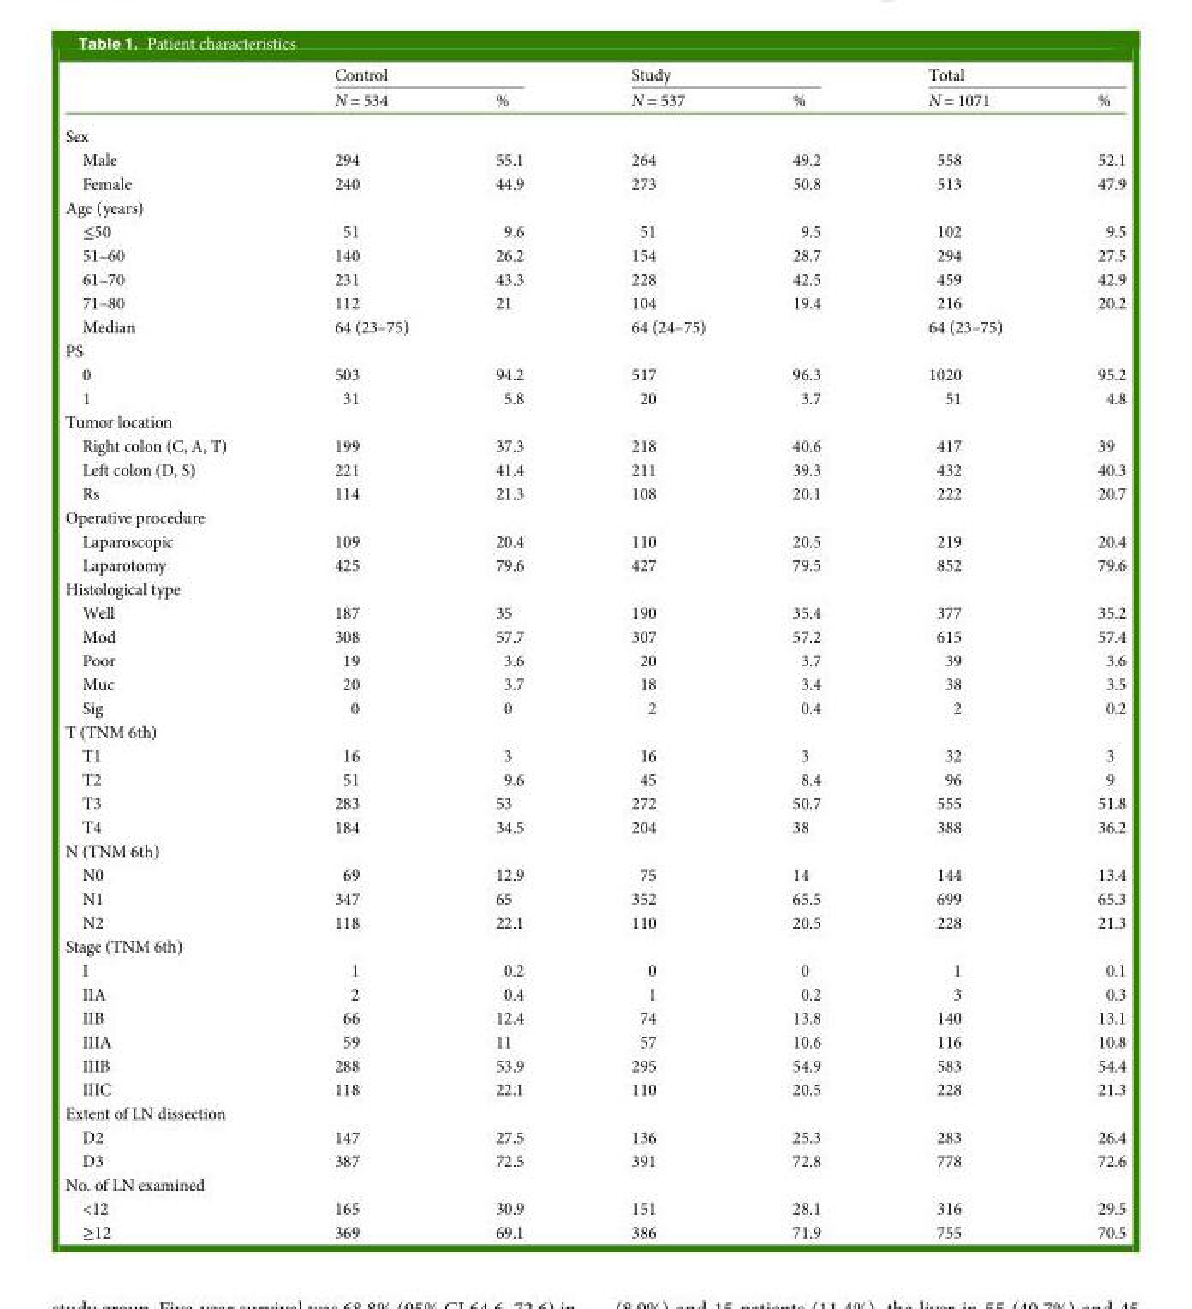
<table><thead><tr><td rowspan="2"></td><td colspan="2">Control</td><td colspan="2">Study</td><td colspan="2">Total</td></tr><tr><td>N = 534</td><td>%</td><td>N = 537</td><td>%</td><td>N = 1071</td><td>%</td></tr></thead><tbody><tr><td colspan="7">Sex</td></tr><tr><td>Male</td><td>294</td><td>55.1</td><td>264</td><td>49.2</td><td>558</td><td>52.1</td></tr><tr><td>Female</td><td>240</td><td>44.9</td><td>273</td><td>50.8</td><td>513</td><td>47.9</td></tr><tr><td colspan="7">Age (years)</td></tr><tr><td>≤50</td><td>51</td><td>9.6</td><td>51</td><td>9.5</td><td>102</td><td>9.5</td></tr><tr><td>51–60</td><td>140</td><td>26.2</td><td>154</td><td>28.7</td><td>294</td><td>27.5</td></tr><tr><td>61–70</td><td>231</td><td>43.3</td><td>228</td><td>42.5</td><td>459</td><td>42.9</td></tr><tr><td>71–80</td><td>112</td><td>21</td><td>104</td><td>19.4</td><td>216</td><td>20.2</td></tr><tr><td>Median</td><td colspan="2">64 (23–75)</td><td colspan="2">64 (24–75)</td><td colspan="2">64 (23–75)</td></tr><tr><td colspan="7">PS</td></tr><tr><td>0</td><td>503</td><td>94.2</td><td>517</td><td>96.3</td><td>1020</td><td>95.2</td></tr><tr><td>1</td><td>31</td><td>5.8</td><td>20</td><td>3.7</td><td>51</td><td>4.8</td></tr><tr><td colspan="7">Tumor location</td></tr><tr><td>Right colon (C, A, T)</td><td>199</td><td>37.3</td><td>218</td><td>40.6</td><td>417</td><td>39</td></tr><tr><td>Left colon (D, S)</td><td>221</td><td>41.4</td><td>211</td><td>39.3</td><td>432</td><td>40.3</td></tr><tr><td>Rs</td><td>114</td><td>21.3</td><td>108</td><td>20.1</td><td>222</td><td>20.7</td></tr><tr><td colspan="7">Operative procedure</td></tr><tr><td>Laparoscopic</td><td>109</td><td>20.4</td><td>110</td><td>20.5</td><td>219</td><td>20.4</td></tr><tr><td>Laparotomy</td><td>425</td><td>79.6</td><td>427</td><td>79.5</td><td>852</td><td>79.6</td></tr><tr><td colspan="7">Histological type</td></tr><tr><td>Well</td><td>187</td><td>35</td><td>190</td><td>35.4</td><td>377</td><td>35.2</td></tr><tr><td>Mod</td><td>308</td><td>57.7</td><td>307</td><td>57.2</td><td>615</td><td>57.4</td></tr><tr><td>Poor</td><td>19</td><td>3.6</td><td>20</td><td>3.7</td><td>39</td><td>3.6</td></tr><tr><td>Muc</td><td>20</td><td>3.7</td><td>18</td><td>3.4</td><td>38</td><td>3.5</td></tr><tr><td>Sig</td><td>0</td><td>0</td><td>2</td><td>0.4</td><td>2</td><td>0.2</td></tr><tr><td colspan="7">T (TNM 6th)</td></tr><tr><td>T1</td><td>16</td><td>3</td><td>16</td><td>3</td><td>32</td><td>3</td></tr><tr><td>T2</td><td>51</td><td>9.6</td><td>45</td><td>8.4</td><td>96</td><td>9</td></tr><tr><td>T3</td><td>283</td><td>53</td><td>272</td><td>50.7</td><td>555</td><td>51.8</td></tr><tr><td>T4</td><td>184</td><td>34.5</td><td>204</td><td>38</td><td>388</td><td>36.2</td></tr><tr><td colspan="7">N (TNM 6th)</td></tr><tr><td>N0</td><td>69</td><td>12.9</td><td>75</td><td>14</td><td>144</td><td>13.4</td></tr><tr><td>N1</td><td>347</td><td>65</td><td>352</td><td>65.5</td><td>699</td><td>65.3</td></tr><tr><td>N2</td><td>118</td><td>22.1</td><td>110</td><td>20.5</td><td>228</td><td>21.3</td></tr><tr><td colspan="7">Stage (TNM 6th)</td></tr><tr><td>I</td><td>1</td><td>0.2</td><td>0</td><td>0</td><td>1</td><td>0.1</td></tr><tr><td>IIA</td><td>2</td><td>0.4</td><td>1</td><td>0.2</td><td>3</td><td>0.3</td></tr><tr><td>IIB</td><td>66</td><td>12.4</td><td>74</td><td>13.8</td><td>140</td><td>13.1</td></tr><tr><td>IIIA</td><td>59</td><td>11</td><td>57</td><td>10.6</td><td>116</td><td>10.8</td></tr><tr><td>IIIB</td><td>288</td><td>53.9</td><td>295</td><td>54.9</td><td>583</td><td>54.4</td></tr><tr><td>IIIC</td><td>118</td><td>22.1</td><td>110</td><td>20.5</td><td>228</td><td>21.3</td></tr><tr><td colspan="7">Extent of LN dissection</td></tr><tr><td>D2</td><td>147</td><td>27.5</td><td>136</td><td>25.3</td><td>283</td><td>26.4</td></tr><tr><td>D3</td><td>387</td><td>72.5</td><td>391</td><td>72.8</td><td>778</td><td>72.6</td></tr><tr><td colspan="7">No. of LN examined</td></tr><tr><td>&lt;12</td><td>165</td><td>30.9</td><td>151</td><td>28.1</td><td>316</td><td>29.5</td></tr><tr><td>≥12</td><td>369</td><td>69.1</td><td>386</td><td>71.9</td><td>755</td><td>70.5</td></tr></tbody></table>